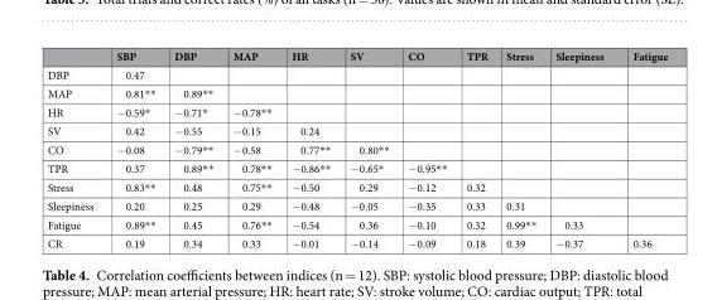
<table><thead><tr><td></td><td>SBP</td><td>DBP</td><td>MAP</td><td>HR</td><td>SV</td><td>CO</td><td>TPR</td><td>Stress</td><td>Sleepiness</td><td>Fatigue</td></tr></thead><tbody><tr><td>DBP</td><td>0.47</td><td></td><td></td><td></td><td></td><td></td><td></td><td></td><td></td><td></td></tr><tr><td>MAP</td><td>0.81**</td><td>0.89**</td><td></td><td></td><td></td><td></td><td></td><td></td><td></td><td></td></tr><tr><td>HR</td><td>−0.59*</td><td>−0.71*</td><td>−0.78**</td><td></td><td></td><td></td><td></td><td></td><td></td><td></td></tr><tr><td>SV</td><td>0.42</td><td>−0.55</td><td>−0.15</td><td>0.24</td><td></td><td></td><td></td><td></td><td></td><td></td></tr><tr><td>CO</td><td>−0.08</td><td>−0.79**</td><td>−0.58</td><td>0.77**</td><td>0.80**</td><td></td><td></td><td></td><td></td><td></td></tr><tr><td>TPR</td><td>0.37</td><td>0.89**</td><td>0.78**</td><td>−0.86**</td><td>−0.65*</td><td>−0.95**</td><td></td><td></td><td></td><td></td></tr><tr><td>Stress</td><td>0.83**</td><td>0.48</td><td>0.75**</td><td>−0.50</td><td>0.29</td><td>−0.12</td><td>0.32</td><td></td><td></td><td></td></tr><tr><td>Sleepiness</td><td>0.20</td><td>0.25</td><td>0.29</td><td>−0.48</td><td>−0.05</td><td>−0.35</td><td>0.33</td><td>0.31</td><td></td><td></td></tr><tr><td>Fatigue</td><td>0.89**</td><td>0.45</td><td>0.76**</td><td>−0.54</td><td>0.36</td><td>−0.10</td><td>0.32</td><td>0.99**</td><td>0.33</td><td></td></tr><tr><td>CR</td><td>0.19</td><td>0.34</td><td>0.33</td><td>−0.01</td><td>−0.14</td><td>−0.09</td><td>0.18</td><td>0.39</td><td>−0.37</td><td>0.36</td></tr></tbody></table>